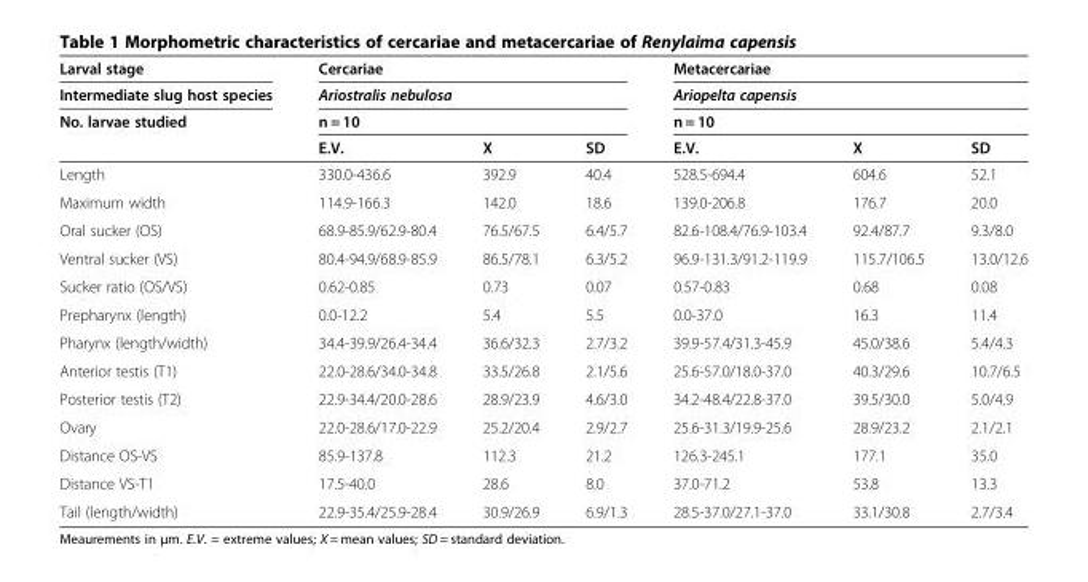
<table><thead><tr><td rowspan="4">Larval stage Intermediate slug host species No. larvae studied</td><td rowspan="3" colspan="3">Cercariae Ariostralis nebulosa n = 10</td><td rowspan="3" colspan="3">Metacercariae Ariopelta capensis n = 10</td></tr><tr></tr><tr></tr><tr><td>E.V.</td><td>X</td><td>SD</td><td>E.V.</td><td>X</td><td>SD</td></tr></thead><tbody><tr><td>Length</td><td>330.0-436.6</td><td>392.9</td><td>40.4</td><td>528.5-694.4</td><td>604.6</td><td>52.1</td></tr><tr><td>Maximum width</td><td>114.9-166.3</td><td>142.0</td><td>18.6</td><td>139.0-206.8</td><td>176.7</td><td>20.0</td></tr><tr><td>Oral sucker (OS)</td><td>68.9-85.9/62.9-80.4</td><td>76.5/67.5</td><td>6.4/5.7</td><td>82.6-108.4/76.9-103.4</td><td>92.4/87.7</td><td>9.3/8.0</td></tr><tr><td>Ventral sucker (VS)</td><td>80.4-94.9/68.9-85.9</td><td>86.5/78.1</td><td>6.3/5.2</td><td>96.9-131.3/91.2-119.9</td><td>115.7/106.5</td><td>13.0/12.6</td></tr><tr><td>Sucker ratio (OS/VS)</td><td>0.62-0.85</td><td>0.73</td><td>0.07</td><td>0.57-0.83</td><td>0.68</td><td>0.08</td></tr><tr><td>Prepharynx (length)</td><td>0.0-12.2</td><td>5.4</td><td>5.5</td><td>0.0-37.0</td><td>16.3</td><td>11.4</td></tr><tr><td>Pharynx (length/width)</td><td>34.4-39.9/26.4-34.4</td><td>36.6/32.3</td><td>2.7/3.2</td><td>39.9-57.4/31.3-45.9</td><td>45.0/38.6</td><td>5.4/4.3</td></tr><tr><td>Anterior testis (T1)</td><td>22.0-28.6/34.0-34.8</td><td>33.5/26.8</td><td>2.1/5.6</td><td>25.6-57.0/18.0-37.0</td><td>40.3/29.6</td><td>10.7/6.5</td></tr><tr><td>Posterior testis (T2)</td><td>22.9-34.4/20.0-28.6</td><td>28.9/23.9</td><td>4.6/3.0</td><td>34.2-48.4/22.8-37.0</td><td>39.5/30.0</td><td>5.0/4.9</td></tr><tr><td>Ovary</td><td>22.0-28.6/17.0-22.9</td><td>25.2/20.4</td><td>2.9/2.7</td><td>25.6-31.3/19.9-25.6</td><td>28.9/23.2</td><td>2.1/2.1</td></tr><tr><td>Distance OS-VS</td><td>85.9-137.8</td><td>112.3</td><td>21.2</td><td>126.3-245.1</td><td>177.1</td><td>35.0</td></tr><tr><td>Distance VS-T1</td><td>17.5-40.0</td><td>28.6</td><td>8.0</td><td>37.0-71.2</td><td>53.8</td><td>13.3</td></tr><tr><td>Tail (length/width)</td><td>22.9-35.4/25.9-28.4</td><td>30.9/26.9</td><td>6.9/1.3</td><td>28.5-37.0/27.1-37.0</td><td>33.1/30.8</td><td>2.7/3.4</td></tr></tbody></table>